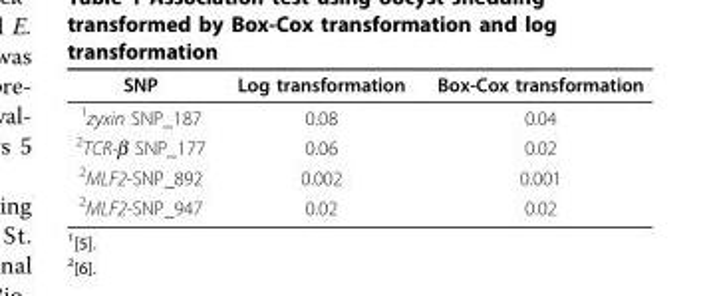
<table><thead><tr><td>SNP</td><td>Log transformation</td><td>Box-Cox transformation</td></tr></thead><tbody><tr><td><sup>1</sup>zyxin SNP_187</td><td>0.08</td><td>0.04</td></tr><tr><td><sup>2</sup>TCR-β SNP_177</td><td>0.06</td><td>0.02</td></tr><tr><td><sup>2</sup>MLF2-SNP_892</td><td>0.002</td><td>0.001</td></tr><tr><td><sup>2</sup>MLF2-SNP_947</td><td>0.02</td><td>0.02</td></tr></tbody></table>